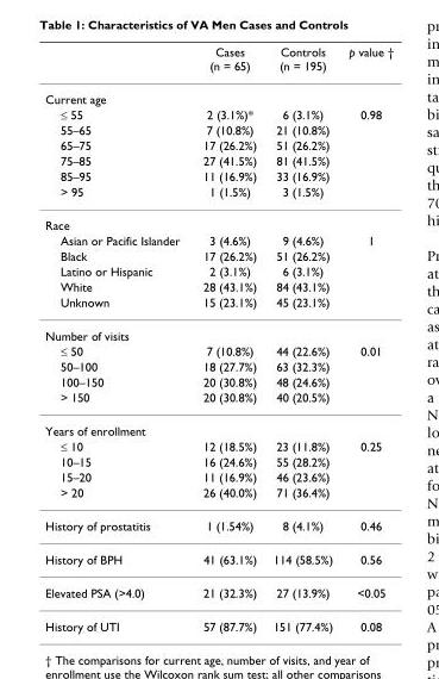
<table><thead><tr><td></td><td>Cases (n = 65)</td><td>Controls (n = 195)</td><td>p value †</td></tr></thead><tbody><tr><td colspan="4">Current age</td></tr><tr><td>≤ 55</td><td>2 (3.1%)*</td><td>6 (3.1%)</td><td>0.98</td></tr><tr><td>55–65</td><td>7 (10.8%)</td><td>21 (10.8%)</td><td></td></tr><tr><td>65–75</td><td>17 (26.2%)</td><td>51 (26.2%)</td><td></td></tr><tr><td>75–85</td><td>27 (41.5%)</td><td>81 (41.5%)</td><td></td></tr><tr><td>85–95</td><td>11 (16.9%)</td><td>33 (16.9%)</td><td></td></tr><tr><td>&gt; 95</td><td>1 (1.5%)</td><td>3 (1.5%)</td><td></td></tr><tr><td colspan="4">Race</td></tr><tr><td>Asian or Pacific Islander</td><td>3 (4.6%)</td><td>9 (4.6%)</td><td>1</td></tr><tr><td>Black</td><td>17 (26.2%)</td><td>51 (26.2%)</td><td></td></tr><tr><td>Latino or Hispanic</td><td>2 (3.1%)</td><td>6 (3.1%)</td><td></td></tr><tr><td>White</td><td>28 (43.1%)</td><td>84 (43.1%)</td><td></td></tr><tr><td>Unknown</td><td>15 (23.1%)</td><td>45 (23.1%)</td><td></td></tr><tr><td colspan="4">Number of visits</td></tr><tr><td>≤ 50</td><td>7 (10.8%)</td><td>44 (22.6%)</td><td>0.01</td></tr><tr><td>50–100</td><td>18 (27.7%)</td><td>63 (32.3%)</td><td></td></tr><tr><td>100–150</td><td>20 (30.8%)</td><td>48 (24.6%)</td><td></td></tr><tr><td>&gt; 150</td><td>20 (30.8%)</td><td>40 (20.5%)</td><td></td></tr><tr><td colspan="4">Years of enrollment</td></tr><tr><td>≤ 10</td><td>12 (18.5%)</td><td>23 (11.8%)</td><td>0.25</td></tr><tr><td>10–15</td><td>16 (24.6%)</td><td>55 (28.2%)</td><td></td></tr><tr><td>15–20</td><td>11 (16.9%)</td><td>46 (23.6%)</td><td></td></tr><tr><td>&gt; 20</td><td>26 (40.0%)</td><td>71 (36.4%)</td><td></td></tr><tr><td>History of prostatitis</td><td>1 (1.54%)</td><td>8 (4.1%)</td><td>0.46</td></tr><tr><td>History of BPH</td><td>41 (63.1%)</td><td>114 (58.5%)</td><td>0.56</td></tr><tr><td>Elevated PSA (&gt;4.0)</td><td>21 (32.3%)</td><td>27 (13.9%)</td><td>&lt;0.05</td></tr><tr><td>History of UTI</td><td>57 (87.7%)</td><td>151 (77.4%)</td><td>0.08</td></tr></tbody></table>